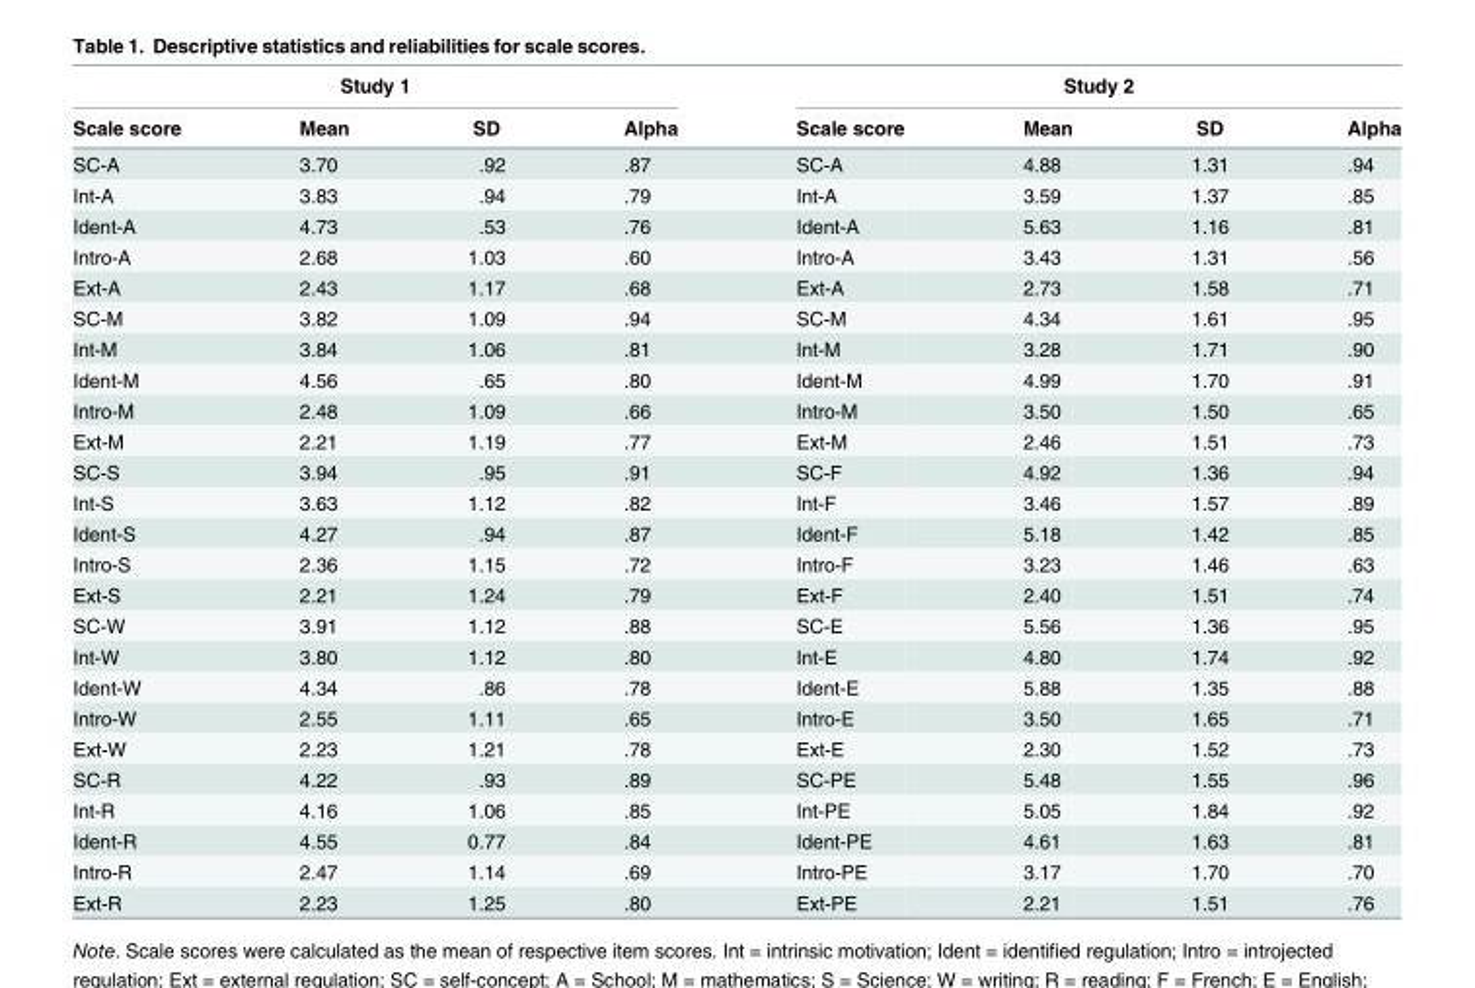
<table><thead><tr><td colspan="4">Study 1</td><td colspan="4">Study 2</td></tr><tr><td>Scale score</td><td>Mean</td><td>SD</td><td>Alpha</td><td>Scale score</td><td>Mean</td><td>SD</td><td>Alpha</td></tr></thead><tbody><tr><td>SC-A</td><td>3.70</td><td>.92</td><td>.87</td><td>SC-A</td><td>4.88</td><td>1.31</td><td>.94</td></tr><tr><td>Int-A</td><td>3.83</td><td>.94</td><td>.79</td><td>Int-A</td><td>3.59</td><td>1.37</td><td>.85</td></tr><tr><td>Ident-A</td><td>4.73</td><td>.53</td><td>.76</td><td>Ident-A</td><td>5.63</td><td>1.16</td><td>.81</td></tr><tr><td>Intro-A</td><td>2.68</td><td>1.03</td><td>.60</td><td>Intro-A</td><td>3.43</td><td>1.31</td><td>.56</td></tr><tr><td>Ext-A</td><td>2.43</td><td>1.17</td><td>.68</td><td>Ext-A</td><td>2.73</td><td>1.58</td><td>.71</td></tr><tr><td>SC-M</td><td>3.82</td><td>1.09</td><td>.94</td><td>SC-M</td><td>4.34</td><td>1.61</td><td>.95</td></tr><tr><td>Int-M</td><td>3.84</td><td>1.06</td><td>.81</td><td>Int-M</td><td>3.28</td><td>1.71</td><td>.90</td></tr><tr><td>Ident-M</td><td>4.56</td><td>.65</td><td>.80</td><td>Ident-M</td><td>4.99</td><td>1.70</td><td>.91</td></tr><tr><td>Intro-M</td><td>2.48</td><td>1.09</td><td>.66</td><td>Intro-M</td><td>3.50</td><td>1.50</td><td>.65</td></tr><tr><td>Ext-M</td><td>2.21</td><td>1.19</td><td>.77</td><td>Ext-M</td><td>2.46</td><td>1.51</td><td>.73</td></tr><tr><td>SC-S</td><td>3.94</td><td>.95</td><td>.91</td><td>SC-F</td><td>4.92</td><td>1.36</td><td>.94</td></tr><tr><td>Int-S</td><td>3.63</td><td>1.12</td><td>.82</td><td>Int-F</td><td>3.46</td><td>1.57</td><td>.89</td></tr><tr><td>Ident-S</td><td>4.27</td><td>.94</td><td>.87</td><td>Ident-F</td><td>5.18</td><td>1.42</td><td>.85</td></tr><tr><td>Intro-S</td><td>2.36</td><td>1.15</td><td>.72</td><td>Intro-F</td><td>3.23</td><td>1.46</td><td>.63</td></tr><tr><td>Ext-S</td><td>2.21</td><td>1.24</td><td>.79</td><td>Ext-F</td><td>2.40</td><td>1.51</td><td>.74</td></tr><tr><td>SC-W</td><td>3.91</td><td>1.12</td><td>.88</td><td>SC-E</td><td>5.56</td><td>1.36</td><td>.95</td></tr><tr><td>Int-W</td><td>3.80</td><td>1.12</td><td>.80</td><td>Int-E</td><td>4.80</td><td>1.74</td><td>.92</td></tr><tr><td>Ident-W</td><td>4.34</td><td>.86</td><td>.78</td><td>Ident-E</td><td>5.88</td><td>1.35</td><td>.88</td></tr><tr><td>Intro-W</td><td>2.55</td><td>1.11</td><td>.65</td><td>Intro-E</td><td>3.50</td><td>1.65</td><td>.71</td></tr><tr><td>Ext-W</td><td>2.23</td><td>1.21</td><td>.78</td><td>Ext-E</td><td>2.30</td><td>1.52</td><td>.73</td></tr><tr><td>SC-R</td><td>4.22</td><td>.93</td><td>.89</td><td>SC-PE</td><td>5.48</td><td>1.55</td><td>.96</td></tr><tr><td>Int-R</td><td>4.16</td><td>1.06</td><td>.85</td><td>Int-PE</td><td>5.05</td><td>1.84</td><td>.92</td></tr><tr><td>Ident-R</td><td>4.55</td><td>0.77</td><td>.84</td><td>Ident-PE</td><td>4.61</td><td>1.63</td><td>.81</td></tr><tr><td>Intro-R</td><td>2.47</td><td>1.14</td><td>.69</td><td>Intro-PE</td><td>3.17</td><td>1.70</td><td>.70</td></tr><tr><td>Ext-R</td><td>2.23</td><td>1.25</td><td>.80</td><td>Ext-PE</td><td>2.21</td><td>1.51</td><td>.76</td></tr></tbody></table>